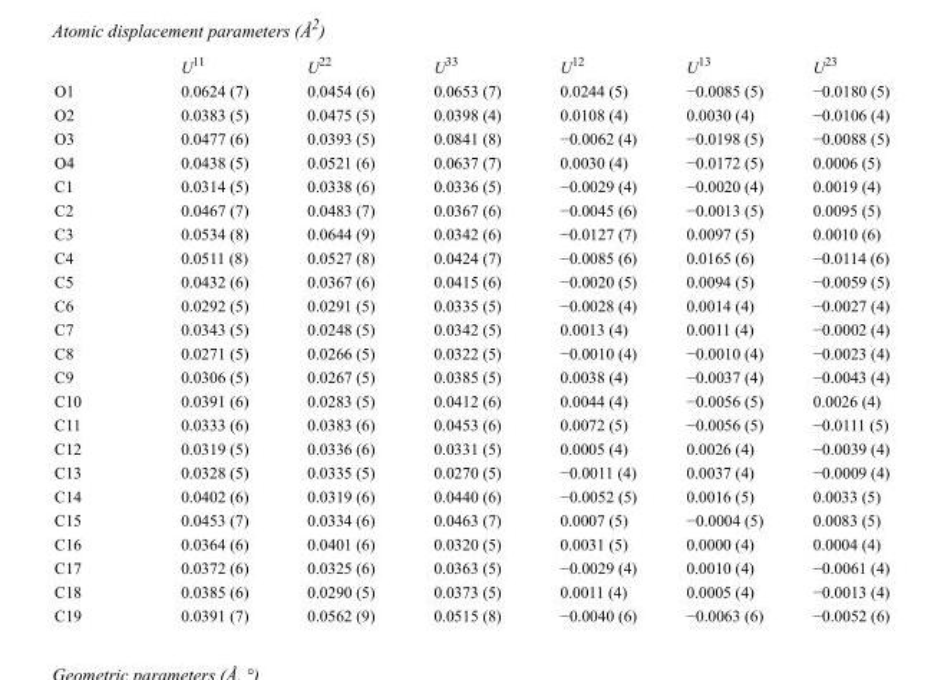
<table><thead><tr><td></td><td>U<sup>11</sup></td><td>U<sup>22</sup></td><td>U<sup>33</sup></td><td>U<sup>12</sup></td><td>U<sup>13</sup></td><td>U<sup>23</sup></td></tr></thead><tbody><tr><td>O1</td><td>0.0624 (7)</td><td>0.0454 (6)</td><td>0.0653 (7)</td><td>0.0244 (5)</td><td>−0.0085 (5)</td><td>−0.0180 (5)</td></tr><tr><td>O2</td><td>0.0383 (5)</td><td>0.0475 (5)</td><td>0.0398 (4)</td><td>0.0108 (4)</td><td>0.0030 (4)</td><td>−0.0106 (4)</td></tr><tr><td>O3</td><td>0.0477 (6)</td><td>0.0393 (5)</td><td>0.0841 (8)</td><td>−0.0062 (4)</td><td>−0.0198 (5)</td><td>−0.0088 (5)</td></tr><tr><td>O4</td><td>0.0438 (5)</td><td>0.0521 (6)</td><td>0.0637 (7)</td><td>0.0030 (4)</td><td>−0.0172 (5)</td><td>0.0006 (5)</td></tr><tr><td>C1</td><td>0.0314 (5)</td><td>0.0338 (6)</td><td>0.0336 (5)</td><td>−0.0029 (4)</td><td>−0.0020 (4)</td><td>0.0019 (4)</td></tr><tr><td>C2</td><td>0.0467 (7)</td><td>0.0483 (7)</td><td>0.0367 (6)</td><td>−0.0045 (6)</td><td>−0.0013 (5)</td><td>0.0095 (5)</td></tr><tr><td>C3</td><td>0.0534 (8)</td><td>0.0644 (9)</td><td>0.0342 (6)</td><td>−0.0127 (7)</td><td>0.0097 (5)</td><td>0.0010 (6)</td></tr><tr><td>C4</td><td>0.0511 (8)</td><td>0.0527 (8)</td><td>0.0424 (7)</td><td>−0.0085 (6)</td><td>0.0165 (6)</td><td>−0.0114 (6)</td></tr><tr><td>C5</td><td>0.0432 (6)</td><td>0.0367 (6)</td><td>0.0415 (6)</td><td>−0.0020 (5)</td><td>0.0094 (5)</td><td>−0.0059 (5)</td></tr><tr><td>C6</td><td>0.0292 (5)</td><td>0.0291 (5)</td><td>0.0335 (5)</td><td>−0.0028 (4)</td><td>0.0014 (4)</td><td>−0.0027 (4)</td></tr><tr><td>C7</td><td>0.0343 (5)</td><td>0.0248 (5)</td><td>0.0342 (5)</td><td>0.0013 (4)</td><td>0.0011 (4)</td><td>−0.0002 (4)</td></tr><tr><td>C8</td><td>0.0271 (5)</td><td>0.0266 (5)</td><td>0.0322 (5)</td><td>−0.0010 (4)</td><td>−0.0010 (4)</td><td>−0.0023 (4)</td></tr><tr><td>C9</td><td>0.0306 (5)</td><td>0.0267 (5)</td><td>0.0385 (5)</td><td>0.0038 (4)</td><td>−0.0037 (4)</td><td>−0.0043 (4)</td></tr><tr><td>C10</td><td>0.0391 (6)</td><td>0.0283 (5)</td><td>0.0412 (6)</td><td>0.0044 (4)</td><td>−0.0056 (5)</td><td>0.0026 (4)</td></tr><tr><td>C11</td><td>0.0333 (6)</td><td>0.0383 (6)</td><td>0.0453 (6)</td><td>0.0072 (5)</td><td>−0.0056 (5)</td><td>−0.0111 (5)</td></tr><tr><td>C12</td><td>0.0319 (5)</td><td>0.0336 (6)</td><td>0.0331 (5)</td><td>0.0005 (4)</td><td>0.0026 (4)</td><td>−0.0039 (4)</td></tr><tr><td>C13</td><td>0.0328 (5)</td><td>0.0335 (5)</td><td>0.0270 (5)</td><td>−0.0011 (4)</td><td>0.0037 (4)</td><td>−0.0009 (4)</td></tr><tr><td>C14</td><td>0.0402 (6)</td><td>0.0319 (6)</td><td>0.0440 (6)</td><td>−0.0052 (5)</td><td>0.0016 (5)</td><td>0.0033 (5)</td></tr><tr><td>C15</td><td>0.0453 (7)</td><td>0.0334 (6)</td><td>0.0463 (7)</td><td>0.0007 (5)</td><td>−0.0004 (5)</td><td>0.0083 (5)</td></tr><tr><td>C16</td><td>0.0364 (6)</td><td>0.0401 (6)</td><td>0.0320 (5)</td><td>0.0031 (5)</td><td>0.0000 (4)</td><td>0.0004 (4)</td></tr><tr><td>C17</td><td>0.0372 (6)</td><td>0.0325 (6)</td><td>0.0363 (5)</td><td>−0.0029 (4)</td><td>0.0010 (4)</td><td>−0.0061 (4)</td></tr><tr><td>C18</td><td>0.0385 (6)</td><td>0.0290 (5)</td><td>0.0373 (5)</td><td>0.0011 (4)</td><td>0.0005 (4)</td><td>−0.0013 (4)</td></tr><tr><td>C19</td><td>0.0391 (7)</td><td>0.0562 (9)</td><td>0.0515 (8)</td><td>−0.0040 (6)</td><td>−0.0063 (6)</td><td>−0.0052 (6)</td></tr></tbody></table>